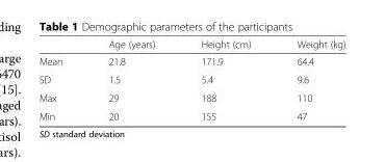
<table><thead><tr><td></td><td>Age (years)</td><td>Height (cm)</td><td>Weight (kg)</td></tr></thead><tbody><tr><td>Mean</td><td>21.8</td><td>171.9</td><td>64.4</td></tr><tr><td>SD</td><td>1.5</td><td>5.4</td><td>9.6</td></tr><tr><td>Max</td><td>29</td><td>188</td><td>110</td></tr><tr><td>Min</td><td>20</td><td>155</td><td>47</td></tr></tbody></table>